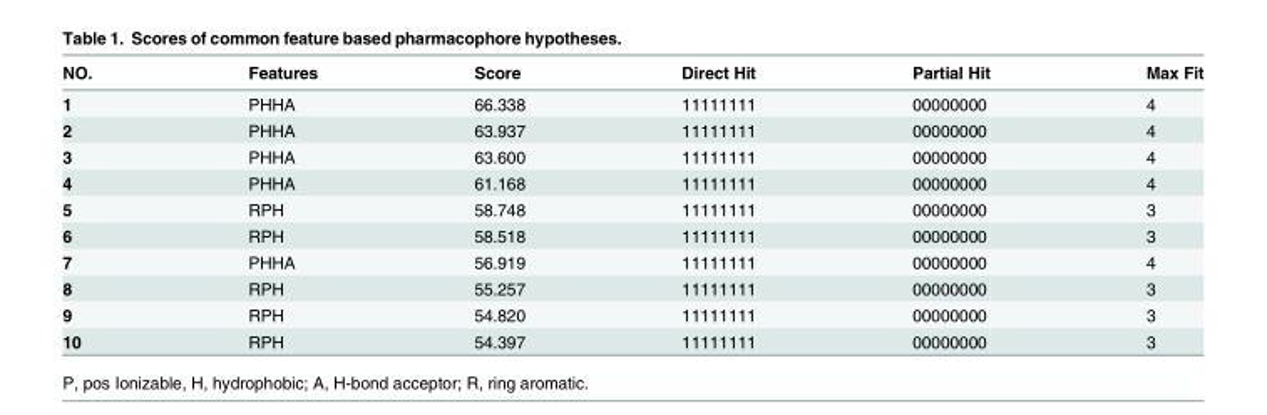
<table><thead><tr><td>NO.</td><td>Features</td><td>Score</td><td>Direct Hit</td><td>Partial Hit</td><td>Max Fit</td></tr></thead><tbody><tr><td>1</td><td>PHHA</td><td>66.338</td><td>11111111</td><td>00000000</td><td>4</td></tr><tr><td>2</td><td>PHHA</td><td>63.937</td><td>11111111</td><td>00000000</td><td>4</td></tr><tr><td>3</td><td>PHHA</td><td>63.600</td><td>11111111</td><td>00000000</td><td>4</td></tr><tr><td>4</td><td>PHHA</td><td>61.168</td><td>11111111</td><td>00000000</td><td>4</td></tr><tr><td>5</td><td>RPH</td><td>58.748</td><td>11111111</td><td>00000000</td><td>3</td></tr><tr><td>6</td><td>RPH</td><td>58.518</td><td>11111111</td><td>00000000</td><td>3</td></tr><tr><td>7</td><td>PHHA</td><td>56.919</td><td>11111111</td><td>00000000</td><td>4</td></tr><tr><td>8</td><td>RPH</td><td>55.257</td><td>11111111</td><td>00000000</td><td>3</td></tr><tr><td>9</td><td>RPH</td><td>54.820</td><td>11111111</td><td>00000000</td><td>3</td></tr><tr><td>10</td><td>RPH</td><td>54.397</td><td>11111111</td><td>00000000</td><td>3</td></tr></tbody></table>